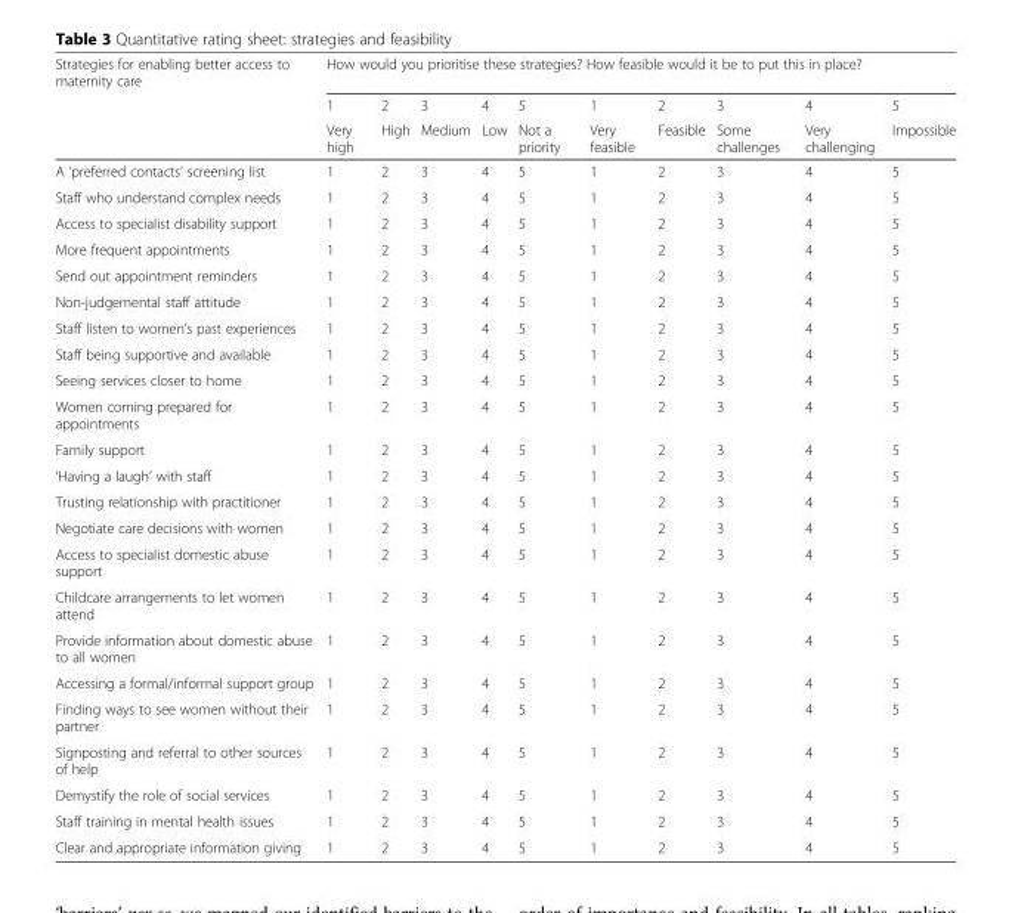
<table><thead><tr><td rowspan="3">Strategies for enabling better access to maternity care</td><td colspan="10">How would you prioritise these strategies? How feasible would it be to put this in place?</td></tr><tr><td rowspan="2">1 Very high</td><td rowspan="2">2 High</td><td rowspan="2">3 Medium</td><td rowspan="2">4 Low</td><td rowspan="2">5 Not a priority</td><td rowspan="2">1 Very feasible</td><td rowspan="2">2 Feasible</td><td rowspan="2">3 Some challenges</td><td rowspan="2">4 Very challenging</td><td rowspan="2">5 Impossible</td></tr><tr></tr></thead><tbody><tr><td>A ‘preferred contacts’ screening list</td><td>1</td><td>2</td><td>3</td><td>4</td><td>5</td><td>1</td><td>2</td><td>3</td><td>4</td><td>5</td></tr><tr><td>Staff who understand complex needs</td><td>1</td><td>2</td><td>3</td><td>4</td><td>5</td><td>1</td><td>2</td><td>3</td><td>4</td><td>5</td></tr><tr><td>Access to specialist disability support</td><td>1</td><td>2</td><td>3</td><td>4</td><td>5</td><td>1</td><td>2</td><td>3</td><td>4</td><td>5</td></tr><tr><td>More frequent appointments</td><td>1</td><td>2</td><td>3</td><td>4</td><td>5</td><td>1</td><td>2</td><td>3</td><td>4</td><td>5</td></tr><tr><td>Send out appointment reminders</td><td>1</td><td>2</td><td>3</td><td>4</td><td>5</td><td>1</td><td>2</td><td>3</td><td>4</td><td>5</td></tr><tr><td>Non-judgemental staff attitude</td><td>1</td><td>2</td><td>3</td><td>4</td><td>5</td><td>1</td><td>2</td><td>3</td><td>4</td><td>5</td></tr><tr><td>Staff listen to women’s past experiences</td><td>1</td><td>2</td><td>3</td><td>4</td><td>5</td><td>1</td><td>2</td><td>3</td><td>4</td><td>5</td></tr><tr><td>Staff being supportive and available</td><td>1</td><td>2</td><td>3</td><td>4</td><td>5</td><td>1</td><td>2</td><td>3</td><td>4</td><td>5</td></tr><tr><td>Seeing services closer to home</td><td>1</td><td>2</td><td>3</td><td>4</td><td>5</td><td>1</td><td>2</td><td>3</td><td>4</td><td>5</td></tr><tr><td>Women coming prepared for appointments</td><td>1</td><td>2</td><td>3</td><td>4</td><td>5</td><td>1</td><td>2</td><td>3</td><td>4</td><td>5</td></tr><tr><td>Family support</td><td>1</td><td>2</td><td>3</td><td>4</td><td>5</td><td>1</td><td>2</td><td>3</td><td>4</td><td>5</td></tr><tr><td>‘Having a laugh’ with staff</td><td>1</td><td>2</td><td>3</td><td>4</td><td>5</td><td>1</td><td>2</td><td>3</td><td>4</td><td>5</td></tr><tr><td>Trusting relationship with practitioner</td><td>1</td><td>2</td><td>3</td><td>4</td><td>5</td><td>1</td><td>2</td><td>3</td><td>4</td><td>5</td></tr><tr><td>Negotiate care decisions with women</td><td>1</td><td>2</td><td>3</td><td>4</td><td>5</td><td>1</td><td>2</td><td>3</td><td>4</td><td>5</td></tr><tr><td>Access to specialist domestic abuse support</td><td>1</td><td>2</td><td>3</td><td>4</td><td>5</td><td>1</td><td>2</td><td>3</td><td>4</td><td>5</td></tr><tr><td>Childcare arrangements to let women attend</td><td>1</td><td>2</td><td>3</td><td>4</td><td>5</td><td>1</td><td>2</td><td>3</td><td>4</td><td>5</td></tr><tr><td>Provide information about domestic abuse to all women</td><td>1</td><td>2</td><td>3</td><td>4</td><td>5</td><td>1</td><td>2</td><td>3</td><td>4</td><td>5</td></tr><tr><td>Accessing a formal/informal support group</td><td>1</td><td>2</td><td>3</td><td>4</td><td>5</td><td>1</td><td>2</td><td>3</td><td>4</td><td>5</td></tr><tr><td>Finding ways to see women without their partner</td><td>1</td><td>2</td><td>3</td><td>4</td><td>5</td><td>1</td><td>2</td><td>3</td><td>4</td><td>5</td></tr><tr><td>Signposting and referral to other sources of help</td><td>1</td><td>2</td><td>3</td><td>4</td><td>5</td><td>1</td><td>2</td><td>3</td><td>4</td><td>5</td></tr><tr><td>Demystify the role of social services</td><td>1</td><td>2</td><td>3</td><td>4</td><td>5</td><td>1</td><td>2</td><td>3</td><td>4</td><td>5</td></tr><tr><td>Staff training in mental health issues</td><td>1</td><td>2</td><td>3</td><td>4</td><td>5</td><td>1</td><td>2</td><td>3</td><td>4</td><td>5</td></tr><tr><td>Clear and appropriate information giving</td><td>1</td><td>2</td><td>3</td><td>4</td><td>5</td><td>1</td><td>2</td><td>3</td><td>4</td><td>5</td></tr></tbody></table>